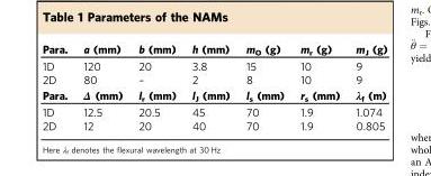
<table><thead><tr><td>Para.</td><td>a (mm)</td><td>b (mm)</td><td>h (mm)</td><td>m<sub>O</sub> (g)</td><td>m<sub>r</sub> (g)</td><td>m<sub>J</sub> (g)</td></tr></thead><tbody><tr><td>1D</td><td>120</td><td>20</td><td>3.8</td><td>15</td><td>10</td><td>9</td></tr><tr><td>2D</td><td>80</td><td>–</td><td>2</td><td>8</td><td>10</td><td>9</td></tr><tr><td>Para.</td><td>Δ (mm)</td><td>l<sub>r</sub> (mm)</td><td>l<sub>J</sub> (mm)</td><td>l<sub>s</sub> (mm)</td><td>r<sub>s</sub> (mm)</td><td>λ<sub>f</sub> (m)</td></tr><tr><td>1D</td><td>12.5</td><td>20.5</td><td>45</td><td>70</td><td>1.9</td><td>1.074</td></tr><tr><td>2D</td><td>12</td><td>20</td><td>40</td><td>70</td><td>1.9</td><td>0.805</td></tr></tbody></table>